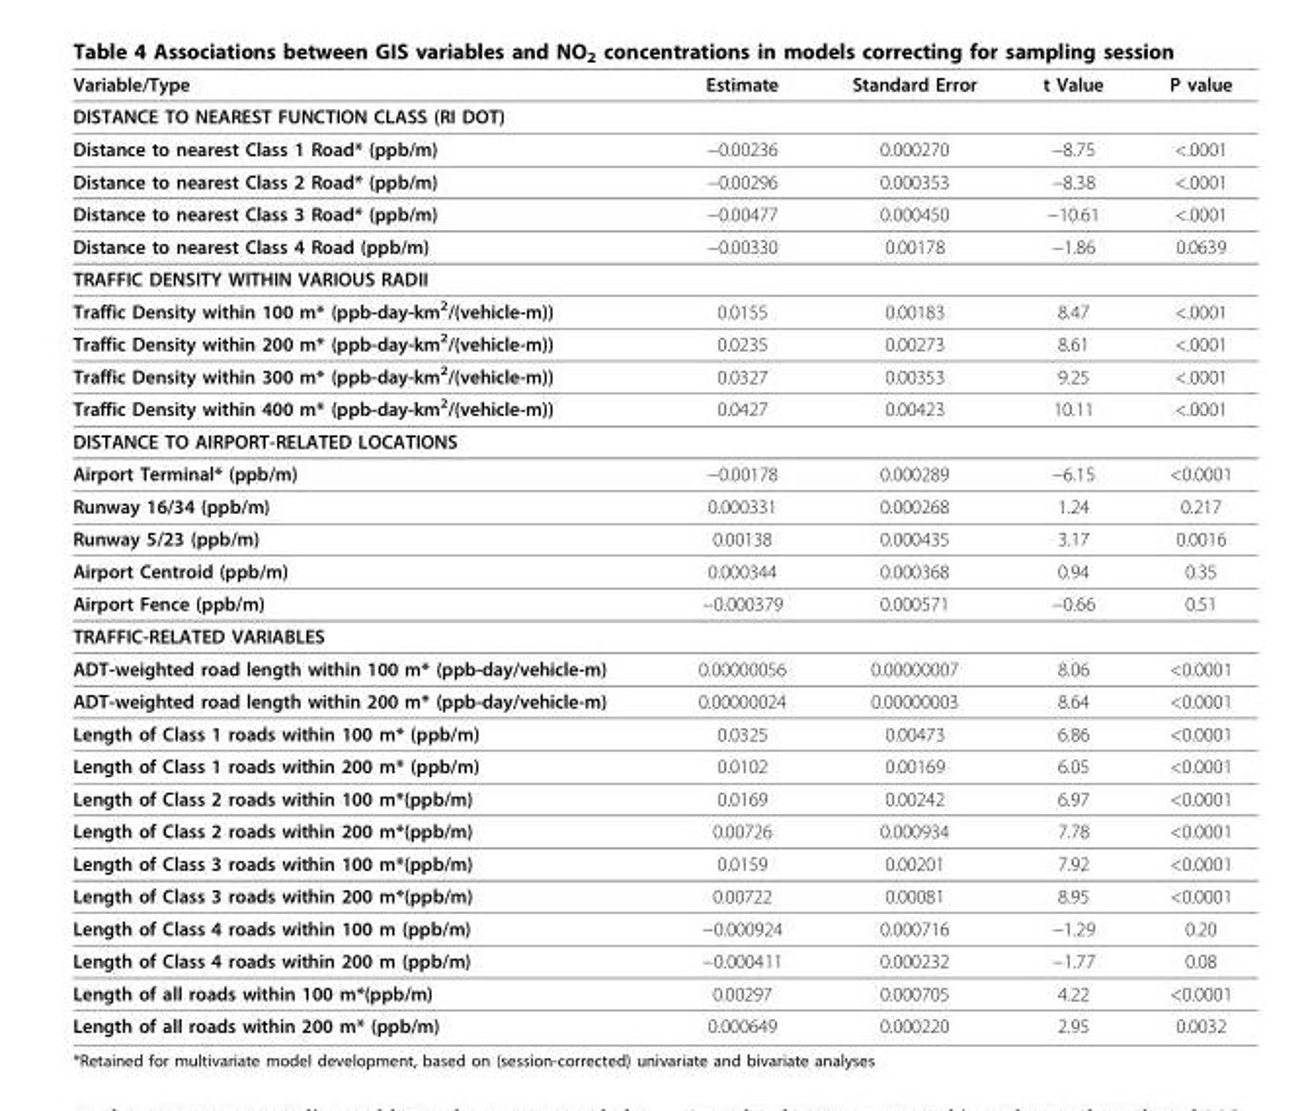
<table><thead><tr><td>Variable/Type</td><td>Estimate</td><td>Standard Error</td><td>t Value</td><td>P value</td></tr></thead><tbody><tr><td colspan="5">DISTANCE TO NEAREST FUNCTION CLASS (RI DOT)</td></tr><tr><td>Distance to nearest Class 1 Road* (ppb/m)</td><td>−0.00236</td><td>0.000270</td><td>−8.75</td><td>&lt;.0001</td></tr><tr><td>Distance to nearest Class 2 Road* (ppb/m)</td><td>−0.00296</td><td>0.000353</td><td>−8.38</td><td>&lt;.0001</td></tr><tr><td>Distance to nearest Class 3 Road* (ppb/m)</td><td>−0.00477</td><td>0.000450</td><td>−10.61</td><td>&lt;.0001</td></tr><tr><td>Distance to nearest Class 4 Road (ppb/m)</td><td>−0.00330</td><td>0.00178</td><td>−1.86</td><td>0.0639</td></tr><tr><td colspan="5">TRAFFIC DENSITY WITHIN VARIOUS RADII</td></tr><tr><td>Traffic Density within 100 m* (ppb-day-km<sup>2</sup>/(vehicle-m))</td><td>0.0155</td><td>0.00183</td><td>8.47</td><td>&lt;.0001</td></tr><tr><td>Traffic Density within 200 m* (ppb-day-km<sup>2</sup>/(vehicle-m))</td><td>0.0235</td><td>0.00273</td><td>8.61</td><td>&lt;.0001</td></tr><tr><td>Traffic Density within 300 m* (ppb-day-km<sup>2</sup>/(vehicle-m))</td><td>0.0327</td><td>0.00353</td><td>9.25</td><td>&lt;.0001</td></tr><tr><td>Traffic Density within 400 m* (ppb-day-km<sup>2</sup>/(vehicle-m))</td><td>0.0427</td><td>0.00423</td><td>10.11</td><td>&lt;.0001</td></tr><tr><td colspan="5">DISTANCE TO AIRPORT-RELATED LOCATIONS</td></tr><tr><td>Airport Terminal* (ppb/m)</td><td>−0.00178</td><td>0.000289</td><td>−6.15</td><td>&lt;0.0001</td></tr><tr><td>Runway 16/34 (ppb/m)</td><td>0.000331</td><td>0.000268</td><td>1.24</td><td>0.217</td></tr><tr><td>Runway 5/23 (ppb/m)</td><td>0.00138</td><td>0.000435</td><td>3.17</td><td>0.0016</td></tr><tr><td>Airport Centroid (ppb/m)</td><td>0.000344</td><td>0.000368</td><td>0.94</td><td>0.35</td></tr><tr><td>Airport Fence (ppb/m)</td><td>−0.000379</td><td>0.000571</td><td>−0.66</td><td>0.51</td></tr><tr><td colspan="5">TRAFFIC-RELATED VARIABLES</td></tr><tr><td>ADT-weighted road length within 100 m* (ppb-day/vehicle-m)</td><td>0.00000056</td><td>0.00000007</td><td>8.06</td><td>&lt;0.0001</td></tr><tr><td>ADT-weighted road length within 200 m* (ppb-day/vehicle-m)</td><td>0.00000024</td><td>0.00000003</td><td>8.64</td><td>&lt;0.0001</td></tr><tr><td>Length of Class 1 roads within 100 m* (ppb/m)</td><td>0.0325</td><td>0.00473</td><td>6.86</td><td>&lt;0.0001</td></tr><tr><td>Length of Class 1 roads within 200 m* (ppb/m)</td><td>0.0102</td><td>0.00169</td><td>6.05</td><td>&lt;0.0001</td></tr><tr><td>Length of Class 2 roads within 100 m*(ppb/m)</td><td>0.0169</td><td>0.00242</td><td>6.97</td><td>&lt;0.0001</td></tr><tr><td>Length of Class 2 roads within 200 m*(ppb/m)</td><td>0.00726</td><td>0.000934</td><td>7.78</td><td>&lt;0.0001</td></tr><tr><td>Length of Class 3 roads within 100 m*(ppb/m)</td><td>0.0159</td><td>0.00201</td><td>7.92</td><td>&lt;0.0001</td></tr><tr><td>Length of Class 3 roads within 200 m*(ppb/m)</td><td>0.00722</td><td>0.00081</td><td>8.95</td><td>&lt;0.0001</td></tr><tr><td>Length of Class 4 roads within 100 m (ppb/m)</td><td>−0.000924</td><td>0.000716</td><td>−1.29</td><td>0.20</td></tr><tr><td>Length of Class 4 roads within 200 m (ppb/m)</td><td>−0.000411</td><td>0.000232</td><td>−1.77</td><td>0.08</td></tr><tr><td>Length of all roads within 100 m*(ppb/m)</td><td>0.00297</td><td>0.000705</td><td>4.22</td><td>&lt;0.0001</td></tr><tr><td>Length of all roads within 200 m* (ppb/m)</td><td>0.000649</td><td>0.000220</td><td>2.95</td><td>0.0032</td></tr></tbody></table>